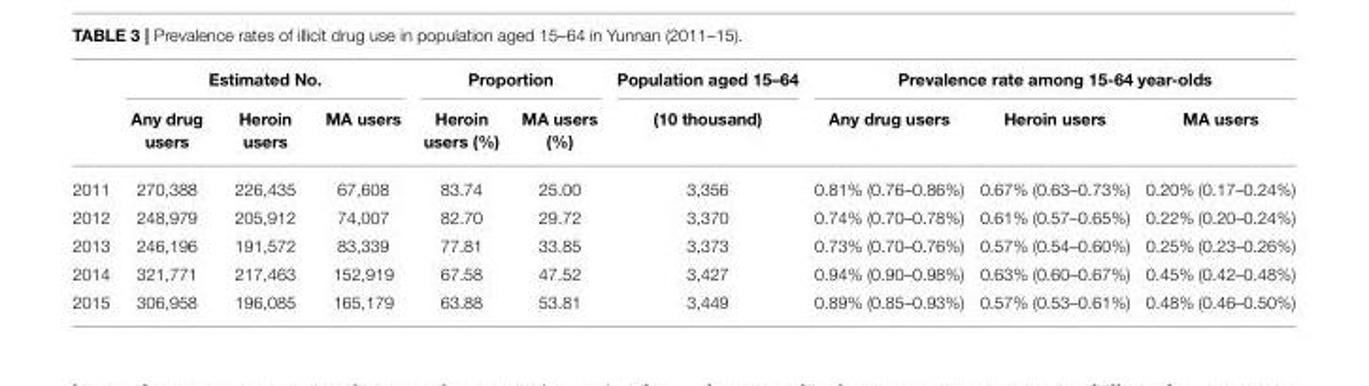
<table><thead><tr><td rowspan="2"></td><td colspan="3">Estimated No.</td><td colspan="2">Proportion</td><td rowspan="2">Population aged 15–64 (10 thousand)</td><td colspan="3">Prevalence rate among 15-64 year-olds</td></tr><tr><td>Any drug users</td><td>Heroin users</td><td>MA users</td><td>Heroin users (%)</td><td>MA users (%)</td><td>Any drug users</td><td>Heroin users</td><td>MA users</td></tr></thead><tbody><tr><td>2011</td><td>270,388</td><td>226,435</td><td>67,608</td><td>83.74</td><td>25.00</td><td>3,356</td><td>0.81% (0.76–0.86%)</td><td>0.67% (0.63–0.73%)</td><td>0.20% (0.17–0.24%)</td></tr><tr><td>2012</td><td>248,979</td><td>205,912</td><td>74,007</td><td>82.70</td><td>29.72</td><td>3,370</td><td>0.74% (0.70–0.78%)</td><td>0.61% (0.57–0.65%)</td><td>0.22% (0.20–0.24%)</td></tr><tr><td>2013</td><td>246,196</td><td>191,572</td><td>83,339</td><td>77.81</td><td>33.85</td><td>3,373</td><td>0.73% (0.70–0.76%)</td><td>0.57% (0.54–0.60%)</td><td>0.25% (0.23–0.26%)</td></tr><tr><td>2014</td><td>321,771</td><td>217,463</td><td>152,919</td><td>67.58</td><td>47.52</td><td>3,427</td><td>0.94% (0.90–0.98%)</td><td>0.63% (0.60–0.67%)</td><td>0.45% (0.42–0.48%)</td></tr><tr><td>2015</td><td>306,958</td><td>196,085</td><td>165,179</td><td>63.88</td><td>53.81</td><td>3,449</td><td>0.89% (0.85–0.93%)</td><td>0.57% (0.53–0.61%)</td><td>0.48% (0.46–0.50%)</td></tr></tbody></table>